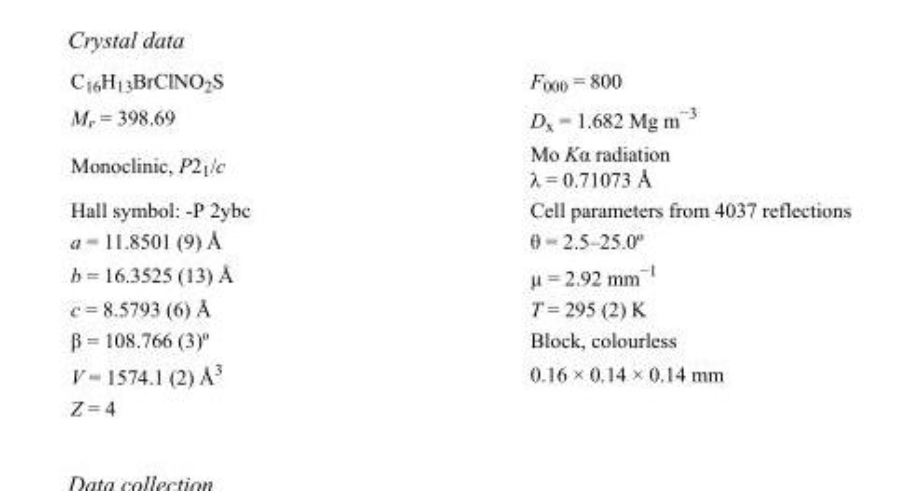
<table><tbody><tr><td>C<sub>16</sub>H<sub>13</sub>BrClNO<sub>2</sub>S</td><td>F<sub>000</sub> = 800</td></tr><tr><td>M<sub>r</sub> = 398.69</td><td>D<sub>x</sub> = 1.682 Mg m<sup>−3</sup></td></tr><tr><td>Monoclinic, P2<sub>1</sub>/c</td><td>Mo Kα radiation λ = 0.71073 Å</td></tr><tr><td>Hall symbol: -P 2ybc</td><td>Cell parameters from 4037 reflections</td></tr><tr><td>a = 11.8501 (9) Å</td><td>θ = 2.5–25.0º</td></tr><tr><td>b = 16.3525 (13) Å</td><td>µ = 2.92 mm<sup>−1</sup></td></tr><tr><td>c = 8.5793 (6) Å</td><td>T = 295 (2) K</td></tr><tr><td>β = 108.766 (3)º</td><td>Block, colourless</td></tr><tr><td>V = 1574.1 (2) Å<sup>3</sup></td><td>0.16 × 0.14 × 0.14 mm</td></tr><tr><td>Z = 4</td><td></td></tr></tbody></table>